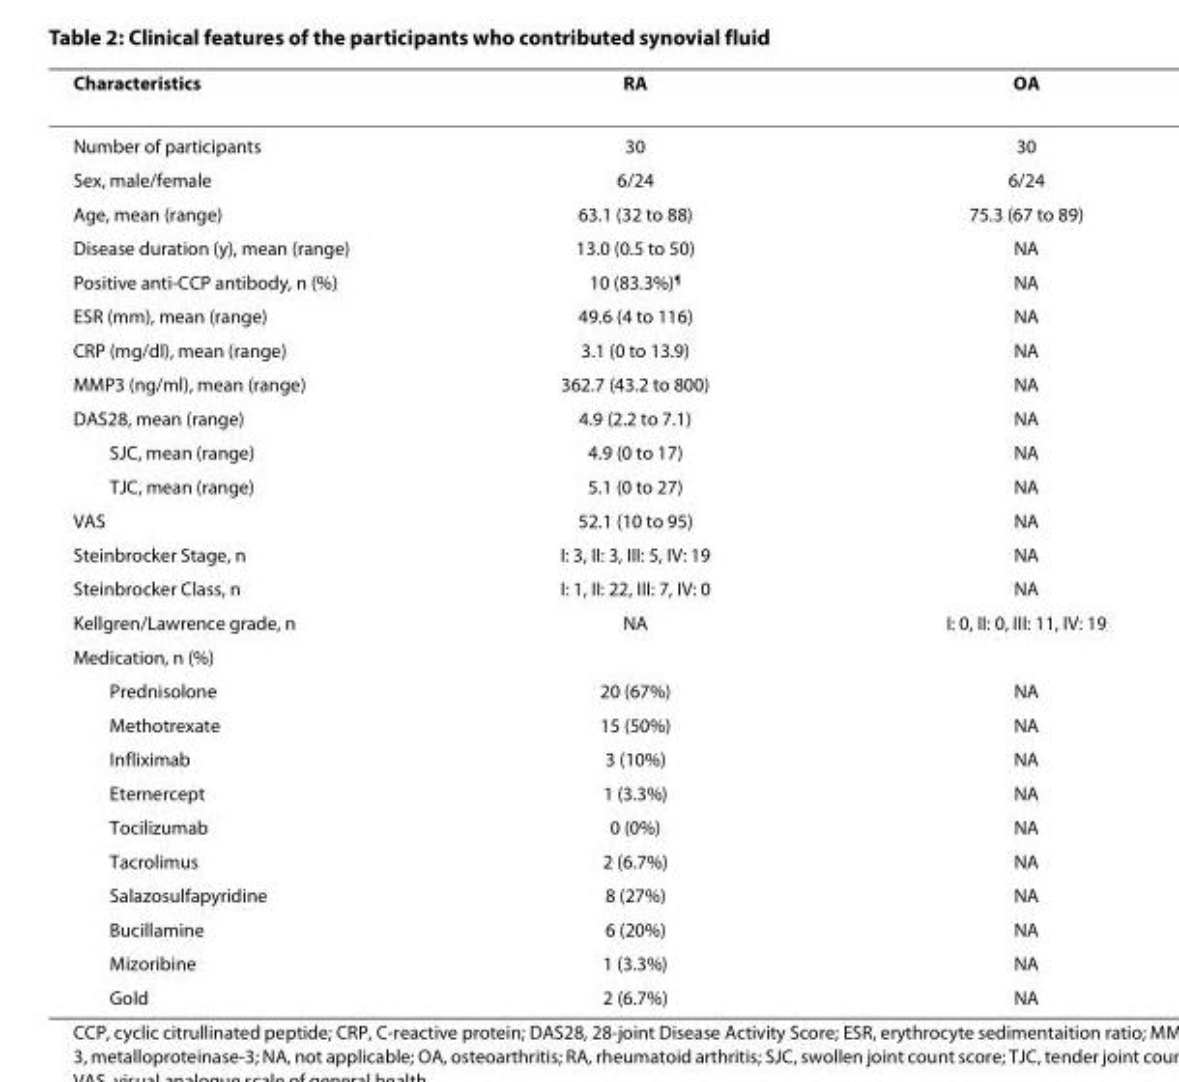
<table><thead><tr><td>Characteristics</td><td>RA</td><td>OA</td></tr></thead><tbody><tr><td>Number of participants</td><td>30</td><td>30</td></tr><tr><td>Sex, male/female</td><td>6/24</td><td>6/24</td></tr><tr><td>Age, mean (range)</td><td>63.1 (32 to 88)</td><td>75.3 (67 to 89)</td></tr><tr><td>Disease duration (y), mean (range)</td><td>13.0 (0.5 to 50)</td><td>NA</td></tr><tr><td>Positive anti-CCP antibody, n (%)</td><td>10 (83.3%)<sup>¶</sup></td><td>NA</td></tr><tr><td>ESR (mm), mean (range)</td><td>49.6 (4 to 116)</td><td>NA</td></tr><tr><td>CRP (mg/dl), mean (range)</td><td>3.1 (0 to 13.9)</td><td>NA</td></tr><tr><td>MMP3 (ng/ml), mean (range)</td><td>362.7 (43.2 to 800)</td><td>NA</td></tr><tr><td>DAS28, mean (range)</td><td>4.9 (2.2 to 7.1)</td><td>NA</td></tr><tr><td>SJC, mean (range)</td><td>4.9 (0 to 17)</td><td>NA</td></tr><tr><td>TJC, mean (range)</td><td>5.1 (0 to 27)</td><td>NA</td></tr><tr><td>VAS</td><td>52.1 (10 to 95)</td><td>NA</td></tr><tr><td>Steinbrocker Stage, n</td><td>I: 3, II: 3, III: 5, IV: 19</td><td>NA</td></tr><tr><td>Steinbrocker Class, n</td><td>I: 1, II: 22, III: 7, IV: 0</td><td>NA</td></tr><tr><td>Kellgren/Lawrence grade, n</td><td>NA</td><td>I: 0, II: 0, III: 11, IV: 19</td></tr><tr><td colspan="3">Medication, n (%)</td></tr><tr><td>Prednisolone</td><td>20 (67%)</td><td>NA</td></tr><tr><td>Methotrexate</td><td>15 (50%)</td><td>NA</td></tr><tr><td>Infliximab</td><td>3 (10%)</td><td>NA</td></tr><tr><td>Eternercept</td><td>1 (3.3%)</td><td>NA</td></tr><tr><td>Tocilizumab</td><td>0 (0%)</td><td>NA</td></tr><tr><td>Tacrolimus</td><td>2 (6.7%)</td><td>NA</td></tr><tr><td>Salazosulfapyridine</td><td>8 (27%)</td><td>NA</td></tr><tr><td>Bucillamine</td><td>6 (20%)</td><td>NA</td></tr><tr><td>Mizoribine</td><td>1 (3.3%)</td><td>NA</td></tr><tr><td>Gold</td><td>2 (6.7%)</td><td>NA</td></tr></tbody></table>